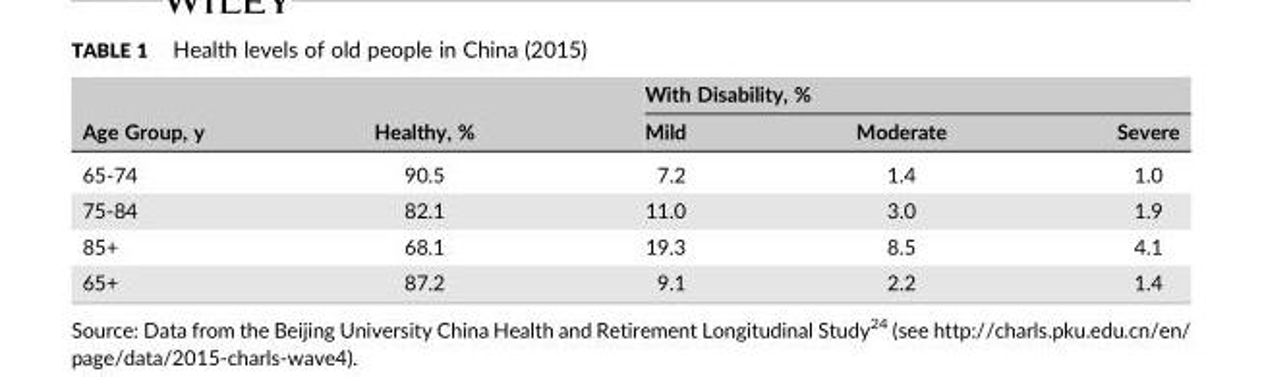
<table><thead><tr><td rowspan="2">Age Group, y</td><td rowspan="2">Healthy, %</td><td colspan="3">With Disability, %</td></tr><tr><td>Mild</td><td>Moderate</td><td>Severe</td></tr></thead><tbody><tr><td>65‐74</td><td>90.5</td><td>7.2</td><td>1.4</td><td>1.0</td></tr><tr><td>75‐84</td><td>82.1</td><td>11.0</td><td>3.0</td><td>1.9</td></tr><tr><td>85+</td><td>68.1</td><td>19.3</td><td>8.5</td><td>4.1</td></tr><tr><td>65+</td><td>87.2</td><td>9.1</td><td>2.2</td><td>1.4</td></tr></tbody></table>